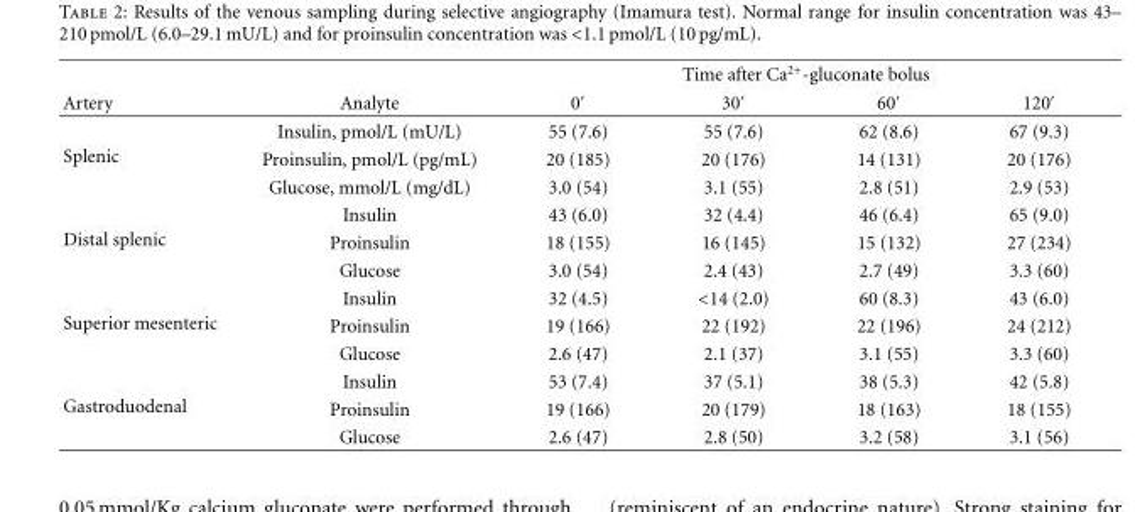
<table><thead><tr><td rowspan="2">Artery</td><td rowspan="2">Analyte</td><td colspan="4">Time after Ca<sup>2+</sup>-gluconate bolus</td></tr><tr><td>0′</td><td>30′</td><td>60′</td><td>120′</td></tr></thead><tbody><tr><td rowspan="3">Splenic</td><td>Insulin, pmol/L (mU/L)</td><td>55 (7.6)</td><td>55 (7.6)</td><td>62 (8.6)</td><td>67 (9.3)</td></tr><tr><td>Proinsulin, pmol/L (pg/mL)</td><td>20 (185)</td><td>20 (176)</td><td>14 (131)</td><td>20 (176)</td></tr><tr><td>Glucose, mmol/L (mg/dL)</td><td>3.0 (54)</td><td>3.1 (55)</td><td>2.8 (51)</td><td>2.9 (53)</td></tr><tr><td rowspan="3">Distal splenic</td><td>Insulin</td><td>43 (6.0)</td><td>32 (4.4)</td><td>46 (6.4)</td><td>65 (9.0)</td></tr><tr><td>Proinsulin</td><td>18 (155)</td><td>16 (145)</td><td>15 (132)</td><td>27 (234)</td></tr><tr><td>Glucose</td><td>3.0 (54)</td><td>2.4 (43)</td><td>2.7 (49)</td><td>3.3 (60)</td></tr><tr><td rowspan="3">Superior mesenteric</td><td>Insulin</td><td>32 (4.5)</td><td>&lt;14 (2.0)</td><td>60 (8.3)</td><td>43 (6.0)</td></tr><tr><td>Proinsulin</td><td>19 (166)</td><td>22 (192)</td><td>22 (196)</td><td>24 (212)</td></tr><tr><td>Glucose</td><td>2.6 (47)</td><td>2.1 (37)</td><td>3.1 (55)</td><td>3.3 (60)</td></tr><tr><td rowspan="3">Gastroduodenal</td><td>Insulin</td><td>53 (7.4)</td><td>37 (5.1)</td><td>38 (5.3)</td><td>42 (5.8)</td></tr><tr><td>Proinsulin</td><td>19 (166)</td><td>20 (179)</td><td>18 (163)</td><td>18 (155)</td></tr><tr><td>Glucose</td><td>2.6 (47)</td><td>2.8 (50)</td><td>3.2 (58)</td><td>3.1 (56)</td></tr></tbody></table>